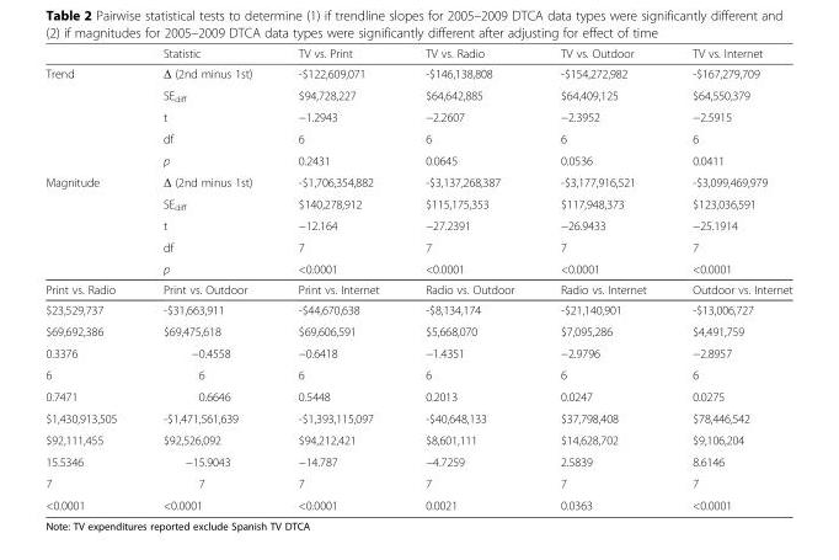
<table><thead><tr><td></td><td>Statistic</td><td>TV vs. Print</td><td>TV vs. Radio</td><td>TV vs. Outdoor</td><td>TV vs. Internet</td></tr></thead><tbody><tr><td rowspan="5">Trend</td><td>Δ (2nd minus 1st)</td><td>-$122,609,071</td><td>-$146,138,808</td><td>-$154,272,982</td><td>-$167,279,709</td></tr><tr><td>SE<sub>diff</sub></td><td>$94,728,227</td><td>$64,642,885</td><td>$64,409,125</td><td>$64,550,379</td></tr><tr><td>t</td><td>−1.2943</td><td>−2.2607</td><td>−2.3952</td><td>−2.5915</td></tr><tr><td>df</td><td>6</td><td>6</td><td>6</td><td>6</td></tr><tr><td>p</td><td>0.2431</td><td>0.0645</td><td>0.0536</td><td>0.0411</td></tr><tr><td rowspan="5">Magnitude</td><td>Δ (2nd minus 1st)</td><td>-$1,706,354,882</td><td>-$3,137,268,387</td><td>-$3,177,916,521</td><td>-$3,099,469,979</td></tr><tr><td>SE<sub>diff</sub></td><td>$140,278,912</td><td>$115,175,353</td><td>$117,948,373</td><td>$123,036,591</td></tr><tr><td>t</td><td>−12.164</td><td>−27.2391</td><td>−26.9433</td><td>−25.1914</td></tr><tr><td>df</td><td>7</td><td>7</td><td>7</td><td>7</td></tr><tr><td>p</td><td>&lt;0.0001</td><td>&lt;0.0001</td><td>&lt;0.0001</td><td>&lt;0.0001</td></tr><tr><td>Print vs. Radio</td><td>Print vs. Outdoor</td><td>Print vs. Internet</td><td>Radio vs. Outdoor</td><td>Radio vs. Internet</td><td>Outdoor vs. Internet</td></tr><tr><td>$23,529,737</td><td>-$31,663,911</td><td>-$44,670,638</td><td>-$8,134,174</td><td>-$21,140,901</td><td>-$13,006,727</td></tr><tr><td>$69,692,386</td><td>$69,475,618</td><td>$69,606,591</td><td>$5,668,070</td><td>$7,095,286</td><td>$4,491,759</td></tr><tr><td>0.3376</td><td>−0.4558</td><td>−0.6418</td><td>−1.4351</td><td>−2.9796</td><td>−2.8957</td></tr><tr><td>6</td><td>6</td><td>6</td><td>6</td><td>6</td><td>6</td></tr><tr><td>0.7471</td><td>0.6646</td><td>0.5448</td><td>0.2013</td><td>0.0247</td><td>0.0275</td></tr><tr><td>$1,430,913,505</td><td>-$1,471,561,639</td><td>-$1,393,115,097</td><td>-$40,648,133</td><td>$37,798,408</td><td>$78,446,542</td></tr><tr><td>$92,111,455</td><td>$92,526,092</td><td>$94,212,421</td><td>$8,601,111</td><td>$14,628,702</td><td>$9,106,204</td></tr><tr><td>15.5346</td><td>−15.9043</td><td>−14.787</td><td>−4.7259</td><td>2.5839</td><td>8.6146</td></tr><tr><td>7</td><td>7</td><td>7</td><td>7</td><td>7</td><td>7</td></tr><tr><td>&lt;0.0001</td><td>&lt;0.0001</td><td>&lt;0.0001</td><td>0.0021</td><td>0.0363</td><td>&lt;0.0001</td></tr></tbody></table>